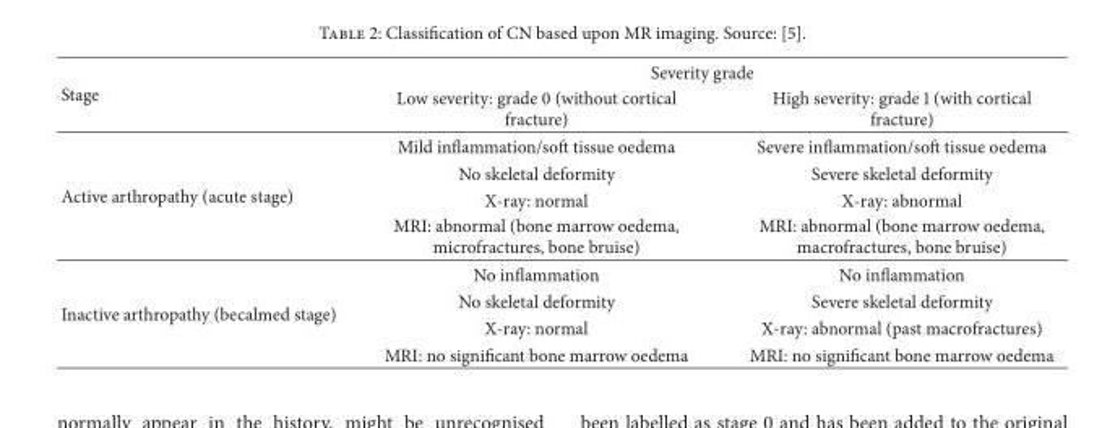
<table><thead><tr><td rowspan="2">Stage</td><td colspan="2">Severity grade</td></tr><tr><td>Low severity: grade 0 (without cortical fracture)</td><td>High severity: grade 1 (with cortical fracture)</td></tr></thead><tbody><tr><td rowspan="4">Active arthropathy (acute stage)</td><td>Mild inflammation/soft tissue oedema</td><td>Severe inflammation/soft tissue oedema</td></tr><tr><td>No skeletal deformity</td><td>Severe skeletal deformity</td></tr><tr><td>X-ray: normal</td><td>X-ray: abnormal</td></tr><tr><td>MRI: abnormal (bone marrow oedema, microfractures, bone bruise)</td><td>MRI: abnormal (bone marrow oedema, macrofractures, bone bruise)</td></tr><tr><td rowspan="4">Inactive arthropathy (becalmed stage)</td><td>No inflammation</td><td>No inflammation</td></tr><tr><td>No skeletal deformity</td><td>Severe skeletal deformity</td></tr><tr><td>X-ray: normal</td><td>X-ray: abnormal (past macrofractures)</td></tr><tr><td>MRI: no significant bone marrow oedema</td><td>MRI: no significant bone marrow oedema</td></tr></tbody></table>